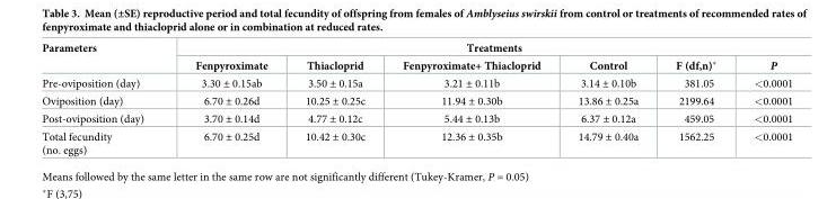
<table><thead><tr><td rowspan="2">Parameters</td><td colspan="6">Treatments</td></tr><tr><td>Fenpyroximate</td><td>Thiacloprid</td><td>Fenpyroximate+ Thiacloprid</td><td>Control</td><td>F (df,n)*</td><td>P</td></tr></thead><tbody><tr><td>Pre-oviposition (day)</td><td>3.30 ± 0.15ab</td><td>3.50 ± 0.15a</td><td>3.21 ± 0.11b</td><td>3.14 ± 0.10b</td><td>381.05</td><td>&lt;0.0001</td></tr><tr><td>Oviposition (day)</td><td>6.70 ± 0.26d</td><td>10.25 ± 0.25c</td><td>11.94 ± 0.30b</td><td>13.86 ± 0.25a</td><td>2199.64</td><td>&lt;0.0001</td></tr><tr><td>Post-oviposition (day)</td><td>3.70 ± 0.14d</td><td>4.77 ± 0.12c</td><td>5.44 ± 0.13b</td><td>6.37 ± 0.12a</td><td>459.05</td><td>&lt;0.0001</td></tr><tr><td>Total fecundity (no. eggs)</td><td>6.70 ± 0.25d</td><td>10.42 ± 0.30c</td><td>12.36 ± 0.35b</td><td>14.79 ± 0.40a</td><td>1562.25</td><td>&lt;0.0001</td></tr></tbody></table>